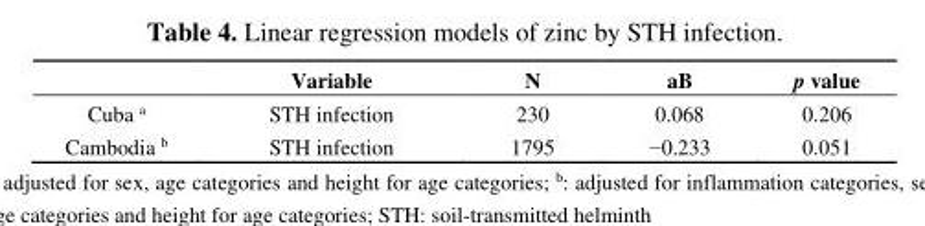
<table><thead><tr><td></td><td>Variable</td><td>N</td><td>aB</td><td>p value</td></tr></thead><tbody><tr><td>Cuba <sup>a</sup></td><td>STH infection</td><td>230</td><td>0.068</td><td>0.206</td></tr><tr><td>Cambodia <sup>b</sup></td><td>STH infection</td><td>1795</td><td>−0.233</td><td>0.051</td></tr></tbody></table>